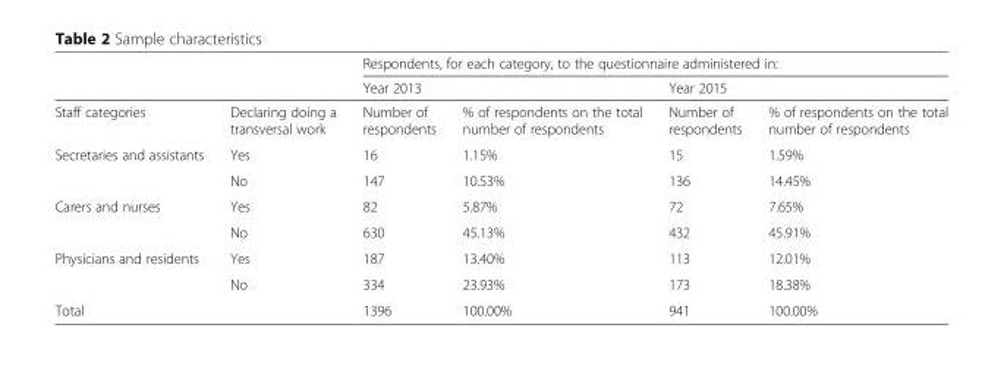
<table><thead><tr><td rowspan="3">Staff categories</td><td rowspan="3">Declaring doing a transversal work</td><td colspan="4">Respondents, for each category, to the questionnaire administered in:</td></tr><tr><td colspan="2">Year 2013</td><td colspan="2">Year 2015</td></tr><tr><td>Number of respondents</td><td>% of respondents on the total number of respondents</td><td>Number of respondents</td><td>% of respondents on the total number of respondents</td></tr></thead><tbody><tr><td rowspan="2">Secretaries and assistants</td><td>Yes</td><td>16</td><td>1.15%</td><td>15</td><td>1.59%</td></tr><tr><td>No</td><td>147</td><td>10.53%</td><td>136</td><td>14.45%</td></tr><tr><td rowspan="2">Carers and nurses</td><td>Yes</td><td>82</td><td>5.87%</td><td>72</td><td>7.65%</td></tr><tr><td>No</td><td>630</td><td>45.13%</td><td>432</td><td>45.91%</td></tr><tr><td rowspan="2">Physicians and residents</td><td>Yes</td><td>187</td><td>13.40%</td><td>113</td><td>12.01%</td></tr><tr><td>No</td><td>334</td><td>23.93%</td><td>173</td><td>18.38%</td></tr><tr><td colspan="2">Total</td><td>1396</td><td>100.00%</td><td>941</td><td>100.00%</td></tr></tbody></table>